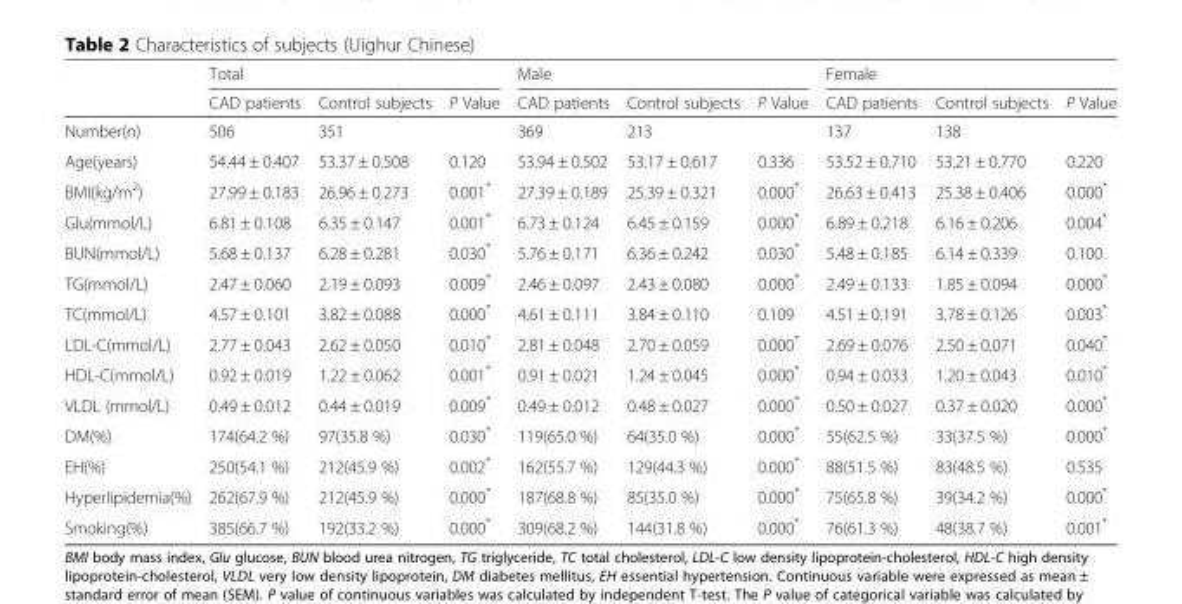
<table><thead><tr><td rowspan="2"></td><td colspan="3">Total</td><td colspan="3">Male</td><td colspan="3">Female</td></tr><tr><td>CAD patients</td><td>Control subjects</td><td>P Value</td><td>CAD patients</td><td>Control subjects</td><td>P Value</td><td>CAD patients</td><td>Control subjects</td><td>P Value</td></tr></thead><tbody><tr><td>Number(n)</td><td>506</td><td>351</td><td></td><td>369</td><td>213</td><td></td><td>137</td><td>138</td><td></td></tr><tr><td>Age(years)</td><td>54.44 ± 0.407</td><td>53.37 ± 0.508</td><td>0.120</td><td>53.94 ± 0.502</td><td>53.17 ± 0.617</td><td>0.336</td><td>53.52 ± 0.710</td><td>53.21 ± 0.770</td><td>0.220</td></tr><tr><td>BMI(kg/m<sup>2</sup>)</td><td>27.99 ± 0.183</td><td>26.96 ± 0.273</td><td>0.001*</td><td>27.39 ± 0.189</td><td>25.39 ± 0.321</td><td>0.000*</td><td>26.63 ± 0.413</td><td>25.38 ± 0.406</td><td>0.000*</td></tr><tr><td>Glu(mmol/L)</td><td>6.81 ± 0.108</td><td>6.35 ± 0.147</td><td>0.001*</td><td>6.73 ± 0.124</td><td>6.45 ± 0.159</td><td>0.000*</td><td>6.89 ± 0.218</td><td>6.16 ± 0.206</td><td>0.004*</td></tr><tr><td>BUN(mmol/L)</td><td>5.68 ± 0.137</td><td>6.28 ± 0.281</td><td>0.030*</td><td>5.76 ± 0.171</td><td>6.36 ± 0.242</td><td>0.030*</td><td>5.48 ± 0.185</td><td>6.14 ± 0.339</td><td>0.100</td></tr><tr><td>TG(mmol/L)</td><td>2.47 ± 0.060</td><td>2.19 ± 0.093</td><td>0.009*</td><td>2.46 ± 0.097</td><td>2.43 ± 0.080</td><td>0.000*</td><td>2.49 ± 0.133</td><td>1.85 ± 0.094</td><td>0.000*</td></tr><tr><td>TC(mmol/L)</td><td>4.57 ± 0.101</td><td>3.82 ± 0.088</td><td>0.000*</td><td>4.61 ± 0.111</td><td>3.84 ± 0.110</td><td>0.109</td><td>4.51 ± 0.191</td><td>3.78 ± 0.126</td><td>0.003*</td></tr><tr><td>LDL-C(mmol/L)</td><td>2.77 ± 0.043</td><td>2.62 ± 0.050</td><td>0.010*</td><td>2.81 ± 0.048</td><td>2.70 ± 0.059</td><td>0.000*</td><td>2.69 ± 0.076</td><td>2.50 ± 0.071</td><td>0.040*</td></tr><tr><td>HDL-C(mmol/L)</td><td>0.92 ± 0.019</td><td>1.22 ± 0.062</td><td>0.001*</td><td>0.91 ± 0.021</td><td>1.24 ± 0.045</td><td>0.000*</td><td>0.94 ± 0.033</td><td>1.20 ± 0.043</td><td>0.010*</td></tr><tr><td>VLDL (mmol/L)</td><td>0.49 ± 0.012</td><td>0.44 ± 0.019</td><td>0.009*</td><td>0.49 ± 0.012</td><td>0.48 ± 0.027</td><td>0.000*</td><td>0.50 ± 0.027</td><td>0.37 ± 0.020</td><td>0.000*</td></tr><tr><td>DM(%)</td><td>174(64.2 %)</td><td>97(35.8 %)</td><td>0.030*</td><td>119(65.0 %)</td><td>64(35.0 %)</td><td>0.000*</td><td>55(62.5 %)</td><td>33(37.5 %)</td><td>0.000*</td></tr><tr><td>EH(%)</td><td>250(54.1 %)</td><td>212(45.9 %)</td><td>0.002*</td><td>162(55.7 %)</td><td>129(44.3 %)</td><td>0.000*</td><td>88(51.5 %)</td><td>83(48.5 %)</td><td>0.535</td></tr><tr><td>Hyperlipidemia(%)</td><td>262(67.9 %)</td><td>212(45.9 %)</td><td>0.000*</td><td>187(68.8 %)</td><td>85(35.0 %)</td><td>0.000*</td><td>75(65.8 %)</td><td>39(34.2 %)</td><td>0.000*</td></tr><tr><td>Smoking(%)</td><td>385(66.7 %)</td><td>192(33.2 %)</td><td>0.000*</td><td>309(68.2 %)</td><td>144(31.8 %)</td><td>0.000*</td><td>76(61.3 %)</td><td>48(38.7 %)</td><td>0.001*</td></tr></tbody></table>